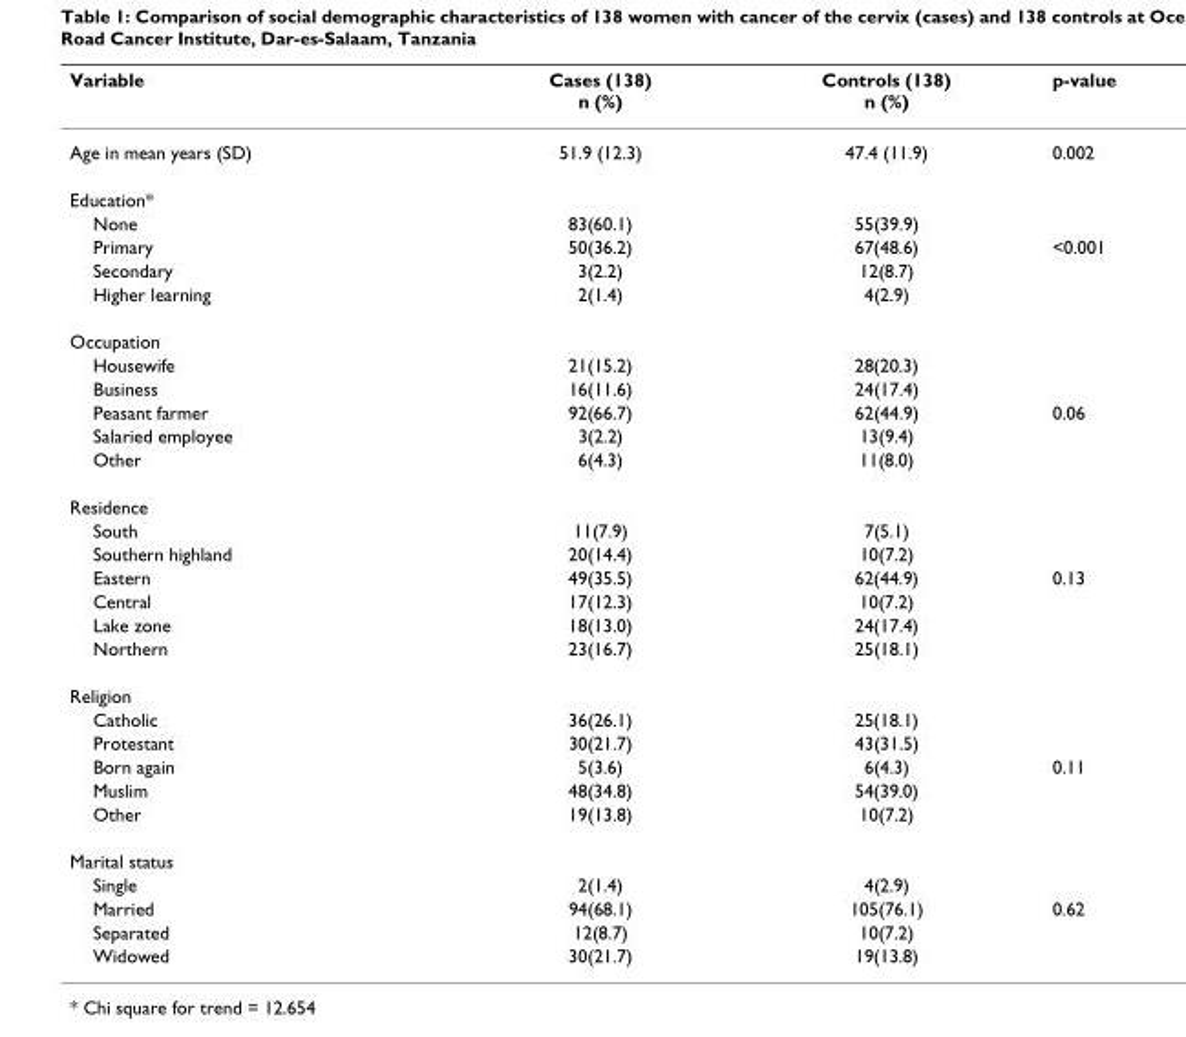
<table><thead><tr><td>Variable</td><td>Cases (138) n (%)</td><td>Controls (138) n (%)</td><td>p-value</td></tr></thead><tbody><tr><td>Age in mean years (SD)</td><td>51.9 (12.3)</td><td>47.4 (11.9)</td><td>0.002</td></tr><tr><td colspan="4">Education*</td></tr><tr><td>None</td><td>83(60.1)</td><td>55(39.9)</td><td></td></tr><tr><td>Primary</td><td>50(36.2)</td><td>67(48.6)</td><td>&lt;0.001</td></tr><tr><td>Secondary</td><td>3(2.2)</td><td>12(8.7)</td><td></td></tr><tr><td>Higher learning</td><td>2(1.4)</td><td>4(2.9)</td><td></td></tr><tr><td colspan="4">Occupation</td></tr><tr><td>Housewife</td><td>21(15.2)</td><td>28(20.3)</td><td></td></tr><tr><td>Business</td><td>16(11.6)</td><td>24(17.4)</td><td></td></tr><tr><td>Peasant farmer</td><td>92(66.7)</td><td>62(44.9)</td><td>0.06</td></tr><tr><td>Salaried employee</td><td>3(2.2)</td><td>13(9.4)</td><td></td></tr><tr><td>Other</td><td>6(4.3)</td><td>11(8.0)</td><td></td></tr><tr><td colspan="4">Residence</td></tr><tr><td>South</td><td>11(7.9)</td><td>7(5.1)</td><td></td></tr><tr><td>Southern highland</td><td>20(14.4)</td><td>10(7.2)</td><td></td></tr><tr><td>Eastern</td><td>49(35.5)</td><td>62(44.9)</td><td>0.13</td></tr><tr><td>Central</td><td>17(12.3)</td><td>10(7.2)</td><td></td></tr><tr><td>Lake zone</td><td>18(13.0)</td><td>24(17.4)</td><td></td></tr><tr><td>Northern</td><td>23(16.7)</td><td>25(18.1)</td><td></td></tr><tr><td colspan="4">Religion</td></tr><tr><td>Catholic</td><td>36(26.1)</td><td>25(18.1)</td><td></td></tr><tr><td>Protestant</td><td>30(21.7)</td><td>43(31.5)</td><td></td></tr><tr><td>Born again</td><td>5(3.6)</td><td>6(4.3)</td><td>0.11</td></tr><tr><td>Muslim</td><td>48(34.8)</td><td>54(39.0)</td><td></td></tr><tr><td>Other</td><td>19(13.8)</td><td>10(7.2)</td><td></td></tr><tr><td colspan="4">Marital status</td></tr><tr><td>Single</td><td>2(1.4)</td><td>4(2.9)</td><td></td></tr><tr><td>Married</td><td>94(68.1)</td><td>105(76.1)</td><td>0.62</td></tr><tr><td>Separated</td><td>12(8.7)</td><td>10(7.2)</td><td></td></tr><tr><td>Widowed</td><td>30(21.7)</td><td>19(13.8)</td><td></td></tr></tbody></table>